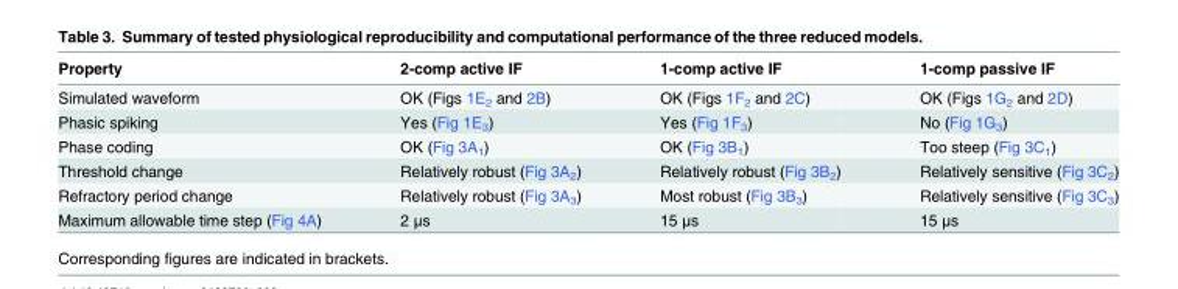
<table><thead><tr><td>Property</td><td>2-comp active IF</td><td>1-comp active IF</td><td>1-comp passive IF</td></tr></thead><tbody><tr><td>Simulated waveform</td><td>OK (Figs 1E<sub>2</sub> and 2B)</td><td>OK (Figs 1F<sub>2</sub> and 2C)</td><td>OK (Figs 1G<sub>2</sub> and 2D)</td></tr><tr><td>Phasic spiking</td><td>Yes (Fig 1E<sub>3</sub>)</td><td>Yes (Fig 1F<sub>3</sub>)</td><td>No (Fig 1G<sub>3</sub>)</td></tr><tr><td>Phase coding</td><td>OK (Fig 3A<sub>1</sub>)</td><td>OK (Fig 3B<sub>1</sub>)</td><td>Too steep (Fig 3C<sub>1</sub>)</td></tr><tr><td>Threshold change</td><td>Relatively robust (Fig 3A<sub>2</sub>)</td><td>Relatively robust (Fig 3B<sub>2</sub>)</td><td>Relatively sensitive (Fig 3C<sub>2</sub>)</td></tr><tr><td>Refractory period change</td><td>Relatively robust (Fig 3A<sub>3</sub>)</td><td>Most robust (Fig 3B<sub>3</sub>)</td><td>Relatively sensitive (Fig 3C<sub>3</sub>)</td></tr><tr><td>Maximum allowable time step (Fig 4A)</td><td>2 μs</td><td>15 μs</td><td>15 μs</td></tr></tbody></table>